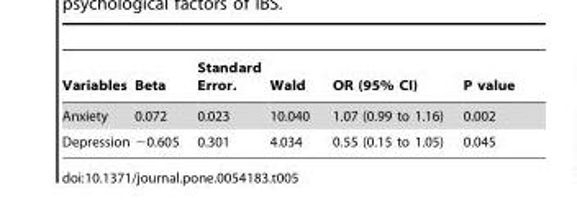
<table><thead><tr><td>Variables</td><td>Beta</td><td>Standard Error.</td><td>Wald</td><td>OR (95% CI)</td><td>P value</td></tr></thead><tbody><tr><td>Anxiety</td><td>0.072</td><td>0.023</td><td>10.040</td><td>1.07 (0.99 to 1.16)</td><td>0.002</td></tr><tr><td>Depression</td><td>−0.605</td><td>0.301</td><td>4.034</td><td>0.55 (0.15 to 1.05)</td><td>0.045</td></tr></tbody></table>